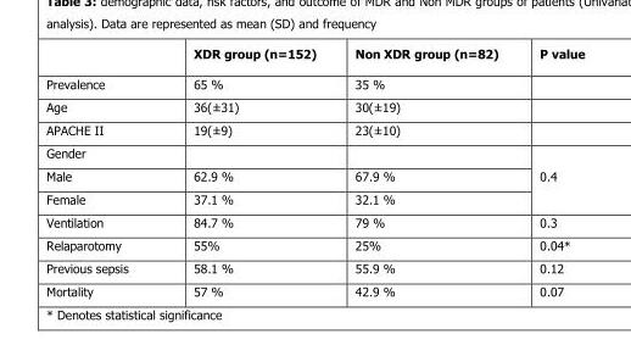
<table><thead><tr><td></td><td>XDR group (n=152)</td><td>Non XDR group (n=82)</td><td>P value</td></tr></thead><tbody><tr><td>Prevalence</td><td>65 %</td><td>35 %</td><td></td></tr><tr><td>Age</td><td>36(±31)</td><td>30(±19)</td><td></td></tr><tr><td>APACHE II</td><td>19(±9)</td><td>23(±10)</td><td></td></tr><tr><td colspan="3">Gender</td><td rowspan="3">0.4</td></tr><tr><td>Male</td><td>62.9 %</td><td>67.9 %</td></tr><tr><td>Female</td><td>37.1 %</td><td>32.1 %</td></tr><tr><td>Ventilation</td><td>84.7 %</td><td>79 %</td><td>0.3</td></tr><tr><td>Relaparotomy</td><td>55%</td><td>25%</td><td>0.04*</td></tr><tr><td>Previous sepsis</td><td>58.1 %</td><td>55.9 %</td><td>0.12</td></tr><tr><td>Mortality</td><td>57 %</td><td>42.9 %</td><td>0.07</td></tr></tbody></table>